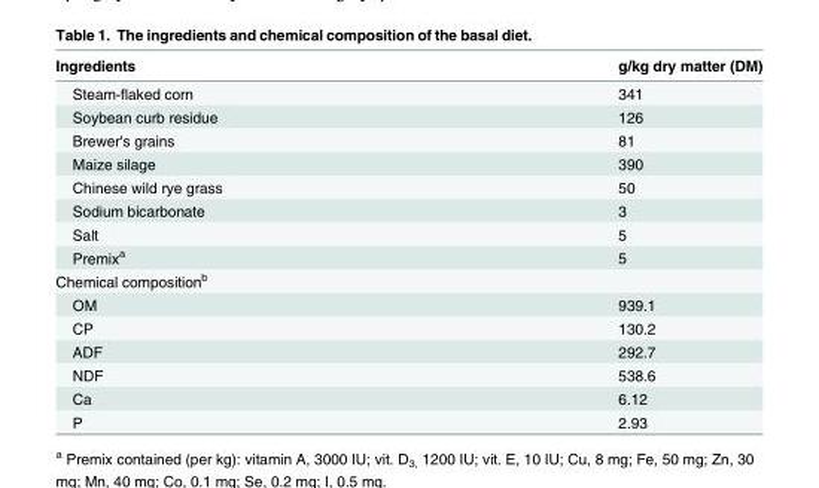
<table><thead><tr><td>Ingredients</td><td>g/kg dry matter (DM)</td></tr></thead><tbody><tr><td>Steam-flaked corn</td><td>341</td></tr><tr><td>Soybean curb residue</td><td>126</td></tr><tr><td>Brewer&#x27;s grains</td><td>81</td></tr><tr><td>Maize silage</td><td>390</td></tr><tr><td>Chinese wild rye grass</td><td>50</td></tr><tr><td>Sodium bicarbonate</td><td>3</td></tr><tr><td>Salt</td><td>5</td></tr><tr><td>Premix<sup>a</sup></td><td>5</td></tr><tr><td colspan="2">Chemical composition<sup>b</sup></td></tr><tr><td>OM</td><td>939.1</td></tr><tr><td>CP</td><td>130.2</td></tr><tr><td>ADF</td><td>292.7</td></tr><tr><td>NDF</td><td>538.6</td></tr><tr><td>Ca</td><td>6.12</td></tr><tr><td>P</td><td>2.93</td></tr></tbody></table>